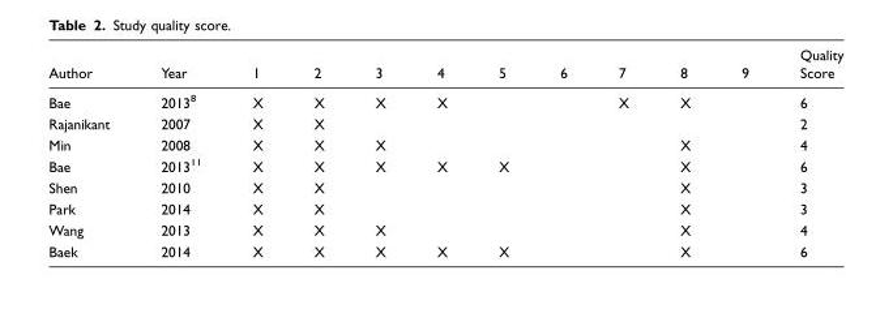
<table><thead><tr><td>Author</td><td>Year</td><td>1</td><td>2</td><td>3</td><td>4</td><td>5</td><td>6</td><td>7</td><td>8</td><td>9</td><td>Quality Score</td></tr></thead><tbody><tr><td>Bae</td><td>2013<sup>8</sup></td><td>X</td><td>X</td><td>X</td><td>X</td><td></td><td></td><td>X</td><td>X</td><td></td><td>6</td></tr><tr><td>Rajanikant</td><td>2007</td><td>X</td><td>X</td><td></td><td></td><td></td><td></td><td></td><td></td><td></td><td>2</td></tr><tr><td>Min</td><td>2008</td><td>X</td><td>X</td><td>X</td><td></td><td></td><td></td><td></td><td>X</td><td></td><td>4</td></tr><tr><td>Bae</td><td>2013<sup>11</sup></td><td>X</td><td>X</td><td>X</td><td>X</td><td>X</td><td></td><td></td><td>X</td><td></td><td>6</td></tr><tr><td>Shen</td><td>2010</td><td>X</td><td>X</td><td></td><td></td><td></td><td></td><td></td><td>X</td><td></td><td>3</td></tr><tr><td>Park</td><td>2014</td><td>X</td><td>X</td><td></td><td></td><td></td><td></td><td></td><td>X</td><td></td><td>3</td></tr><tr><td>Wang</td><td>2013</td><td>X</td><td>X</td><td>X</td><td></td><td></td><td></td><td></td><td>X</td><td></td><td>4</td></tr><tr><td>Baek</td><td>2014</td><td>X</td><td>X</td><td>X</td><td>X</td><td>X</td><td></td><td></td><td>X</td><td></td><td>6</td></tr></tbody></table>